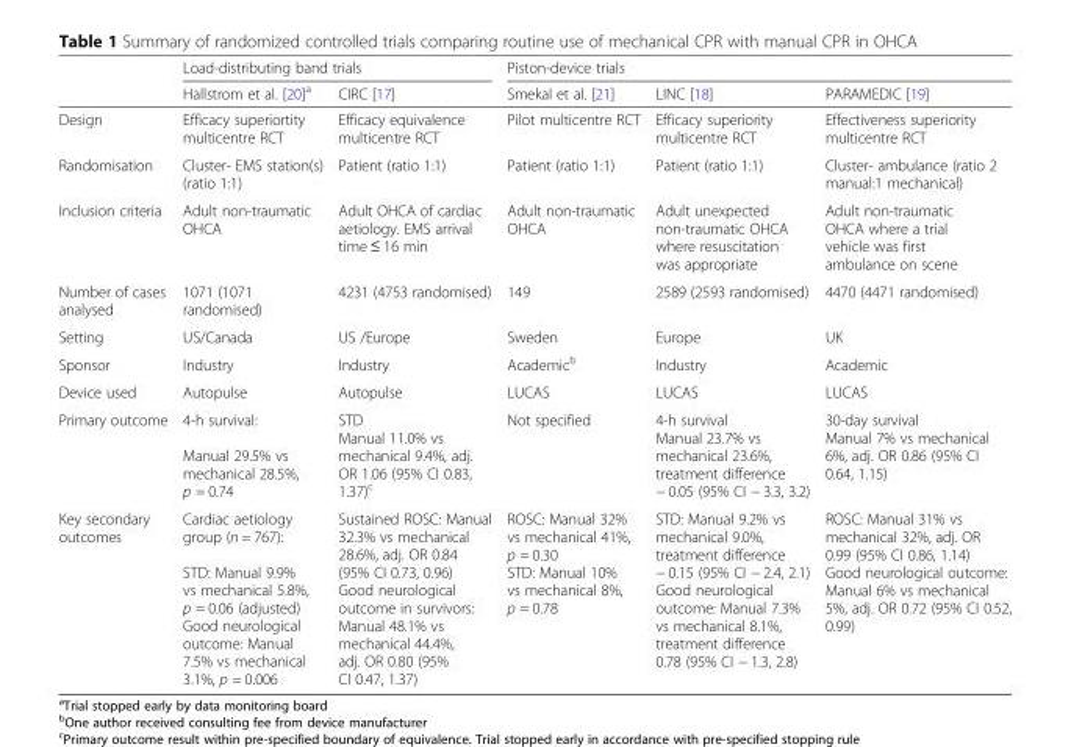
<table><thead><tr><td rowspan="2"></td><td colspan="2">Load-distributing band trials</td><td colspan="3">Piston-device trials</td></tr><tr><td>Hallstrom et al. [20]<sup>a</sup></td><td>CIRC [17]</td><td>Smekal et al. [21]</td><td>LINC [18]</td><td>PARAMEDIC [19]</td></tr></thead><tbody><tr><td>Design</td><td>Efficacy superiortity multicentre RCT</td><td>Efficacy equivalence multicentre RCT</td><td>Pilot multicentre RCT</td><td>Efficacy superiority multicentre RCT</td><td>Effectiveness superiority multicentre RCT</td></tr><tr><td>Randomisation</td><td>Cluster- EMS station(s) (ratio 1:1)</td><td>Patient (ratio 1:1)</td><td>Patient (ratio 1:1)</td><td>Patient (ratio 1:1)</td><td>Cluster- ambulance (ratio 2 manual:1 mechanical)</td></tr><tr><td>Inclusion criteria</td><td>Adult non-traumatic OHCA</td><td>Adult OHCA of cardiac aetiology. EMS arrival time ≤ 16 min</td><td>Adult non-traumatic OHCA</td><td>Adult unexpected non-traumatic OHCA where resuscitation was appropriate</td><td>Adult non-traumatic OHCA where a trial vehicle was first ambulance on scene</td></tr><tr><td>Number of cases analysed</td><td>1071 (1071 randomised)</td><td>4231 (4753 randomised)</td><td>149</td><td>2589 (2593 randomised)</td><td>4470 (4471 randomised)</td></tr><tr><td>Setting</td><td>US/Canada</td><td>US /Europe</td><td>Sweden</td><td>Europe</td><td>UK</td></tr><tr><td>Sponsor</td><td>Industry</td><td>Industry</td><td>Academic<sup>b</sup></td><td>Industry</td><td>Academic</td></tr><tr><td>Device used</td><td>Autopulse</td><td>Autopulse</td><td>LUCAS</td><td>LUCAS</td><td>LUCAS</td></tr><tr><td>Primary outcome</td><td>4-h survival: Manual 29.5% vs mechanical 28.5%, p = 0.74</td><td>STD Manual 11.0% vs mechanical 9.4%, adj. OR 1.06 (95% CI 0.83, 1.37)<sup>c</sup></td><td>Not specified</td><td>4-h survival Manual 23.7% vs mechanical 23.6%, treatment difference − 0.05 (95% CI − 3.3, 3.2)</td><td>30-day survival Manual 7% vs mechanical 6%, adj. OR 0.86 (95% CI 0.64, 1.15)</td></tr><tr><td>Key secondary outcomes</td><td>Cardiac aetiology group (n = 767): STD: Manual 9.9% vs mechanical 5.8%, p = 0.06 (adjusted) Good neurological outcome: Manual 7.5% vs mechanical 3.1%, p = 0.006</td><td>Sustained ROSC: Manual 32.3% vs mechanical 28.6%, adj. OR 0.84 (95% CI 0.73, 0.96) Good neurological outcome in survivors: Manual 48.1% vs mechanical 44.4%, adj. OR 0.80 (95% CI 0.47, 1.37)</td><td>ROSC: Manual 32% vs mechanical 41%, p = 0.30 STD: Manual 10% vs mechanical 8%, p = 0.78</td><td>STD: Manual 9.2% vs mechanical 9.0%, treatment difference − 0.15 (95% CI − 2.4, 2.1) Good neurological outcome: Manual 7.3% vs mechanical 8.1%, treatment difference 0.78 (95% CI − 1.3, 2.8)</td><td>ROSC: Manual 31% vs mechanical 32%, adj. OR 0.99 (95% CI 0.86, 1.14) Good neurological outcome: Manual 6% vs mechanical 5%, adj. OR 0.72 (95% CI 0.52, 0.99)</td></tr></tbody></table>